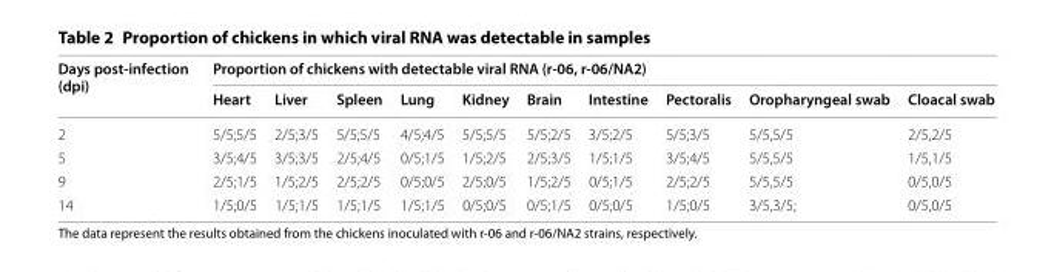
<table><thead><tr><td rowspan="2">Days post‑infection (dpi)</td><td colspan="10">Proportion of chickens with detectable viral RNA (r‑06, r‑06/NA2)</td></tr><tr><td>Heart</td><td>Liver</td><td>Spleen</td><td>Lung</td><td>Kidney</td><td>Brain</td><td>Intestine</td><td>Pectoralis</td><td>Oropharyngeal swab</td><td>Cloacal swab</td></tr></thead><tbody><tr><td>2</td><td>5/5;5/5</td><td>2/5;3/5</td><td>5/5;5/5</td><td>4/5;4/5</td><td>5/5;5/5</td><td>5/5;2/5</td><td>3/5;2/5</td><td>5/5;3/5</td><td>5/5,5/5</td><td>2/5,2/5</td></tr><tr><td>5</td><td>3/5;4/5</td><td>3/5;3/5</td><td>2/5;4/5</td><td>0/5;1/5</td><td>1/5;2/5</td><td>2/5;3/5</td><td>1/5;1/5</td><td>3/5;4/5</td><td>5/5,5/5</td><td>1/5,1/5</td></tr><tr><td>9</td><td>2/5;1/5</td><td>1/5;2/5</td><td>2/5;2/5</td><td>0/5;0/5</td><td>2/5;0/5</td><td>1/5;2/5</td><td>0/5;1/5</td><td>2/5;2/5</td><td>5/5,5/5</td><td>0/5,0/5</td></tr><tr><td>14</td><td>1/5;0/5</td><td>1/5;1/5</td><td>1/5;1/5</td><td>1/5;1/5</td><td>0/5;0/5</td><td>0/5;1/5</td><td>0/5;0/5</td><td>1/5;0/5</td><td>3/5,3/5;</td><td>0/5,0/5</td></tr></tbody></table>